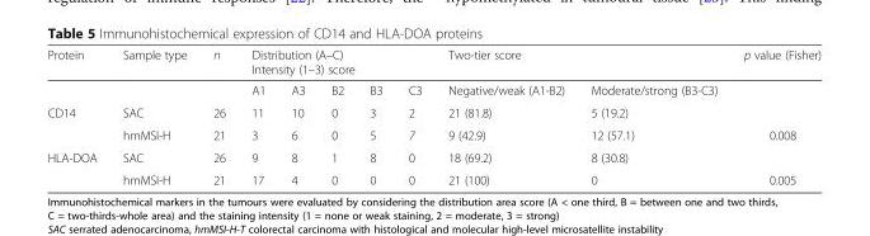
<table><thead><tr><td rowspan="2">Protein</td><td rowspan="2">Sample type</td><td rowspan="2">n</td><td colspan="5">Distribution (A–C) Intensity (1–3) score</td><td colspan="2">Two-tier score</td><td rowspan="2">p value (Fisher)</td></tr><tr><td>A1</td><td>A3</td><td>B2</td><td>B3</td><td>C3</td><td>Negative/weak (A1-B2)</td><td>Moderate/strong (B3-C3)</td></tr></thead><tbody><tr><td rowspan="2">CD14</td><td>SAC</td><td>26</td><td>11</td><td>10</td><td>0</td><td>3</td><td>2</td><td>21 (81.8)</td><td>5 (19.2)</td><td></td></tr><tr><td>hmMSI-H</td><td>21</td><td>3</td><td>6</td><td>0</td><td>5</td><td>7</td><td>9 (42.9)</td><td>12 (57.1)</td><td>0.008</td></tr><tr><td rowspan="2">HLA-DOA</td><td>SAC</td><td>26</td><td>9</td><td>8</td><td>1</td><td>8</td><td>0</td><td>18 (69.2)</td><td>8 (30.8)</td><td></td></tr><tr><td>hmMSI-H</td><td>21</td><td>17</td><td>4</td><td>0</td><td>0</td><td>0</td><td>21 (100)</td><td>0</td><td>0.005</td></tr></tbody></table>